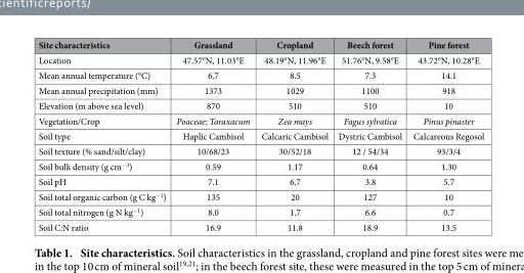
<table><thead><tr><td>Site characteristics</td><td>Grassland</td><td>Cropland</td><td>Beech forest</td><td>Pine forest</td></tr></thead><tbody><tr><td>Location</td><td>47.57°N, 11.03°E</td><td>48.19°N, 11.96°E</td><td>51.76°N, 9.58°E</td><td>43.72°N, 10.28°E</td></tr><tr><td>Mean annual temperature (°C)</td><td>6.7</td><td>8.5</td><td>7.3</td><td>14.1</td></tr><tr><td>Mean annual precipitation (mm)</td><td>1373</td><td>1029</td><td>1100</td><td>918</td></tr><tr><td>Elevation (m above sea level)</td><td>870</td><td>510</td><td>510</td><td>10</td></tr><tr><td>Vegetation/Crop</td><td>Poaceae; Taraxacum</td><td>Zea mays</td><td>Fagus sylvatica</td><td>Pinus pinaster</td></tr><tr><td>Soil type</td><td>Haplic Cambisol</td><td>Calcaric Cambisol</td><td>Dystric Cambisol</td><td>Calcareous Regosol</td></tr><tr><td>Soil texture (% sand/silt/clay)</td><td>10/68/23</td><td>30/52/18</td><td>12 / 54/34</td><td>93/3/4</td></tr><tr><td>Soil bulk density (g cm<sup>−3</sup>)</td><td>0.59</td><td>1.17</td><td>0.64</td><td>1.30</td></tr><tr><td>Soil pH</td><td>7.1</td><td>6.7</td><td>3.8</td><td>5.7</td></tr><tr><td>Soil total organic carbon (g C kg<sup>−1</sup>)</td><td>135</td><td>20</td><td>127</td><td>10</td></tr><tr><td>Soil total nitrogen (g N kg<sup>−1</sup>)</td><td>8.0</td><td>1.7</td><td>6.6</td><td>0.7</td></tr><tr><td>Soil C:N ratio</td><td>16.9</td><td>11.8</td><td>18.9</td><td>13.5</td></tr></tbody></table>